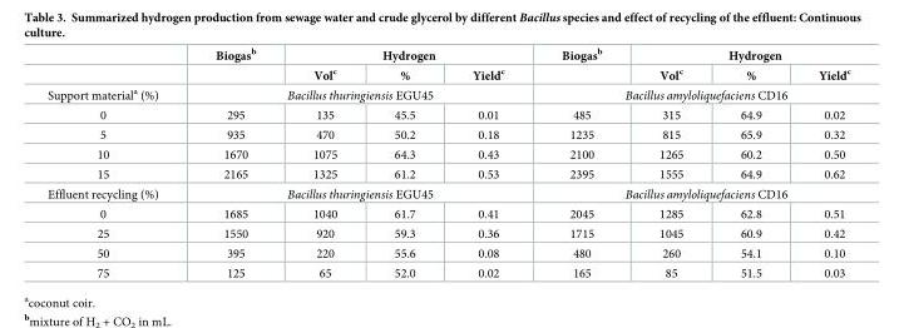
<table><thead><tr><td rowspan="2"></td><td rowspan="2">Biogas<sup>b</sup></td><td colspan="3">Hydrogen</td><td rowspan="2">Biogas<sup>b</sup></td><td colspan="3">Hydrogen</td></tr><tr><td>Vol<sup>c</sup></td><td>%</td><td>Yield<sup>c</sup></td><td>Vol<sup>c</sup></td><td>%</td><td>Yield<sup>c</sup></td></tr></thead><tbody><tr><td>Support material<sup>a</sup> (%)</td><td colspan="4">Bacillus thuringiensis EGU45</td><td colspan="4">Bacillus amyloliquefaciens CD16</td></tr><tr><td>0</td><td>295</td><td>135</td><td>45.5</td><td>0.01</td><td>485</td><td>315</td><td>64.9</td><td>0.02</td></tr><tr><td>5</td><td>935</td><td>470</td><td>50.2</td><td>0.18</td><td>1235</td><td>815</td><td>65.9</td><td>0.32</td></tr><tr><td>10</td><td>1670</td><td>1075</td><td>64.3</td><td>0.43</td><td>2100</td><td>1265</td><td>60.2</td><td>0.50</td></tr><tr><td>15</td><td>2165</td><td>1325</td><td>61.2</td><td>0.53</td><td>2395</td><td>1555</td><td>64.9</td><td>0.62</td></tr><tr><td>Effluent recycling (%)</td><td colspan="4">Bacillus thuringiensis EGU45</td><td colspan="4">Bacillus amyloliquefaciens CD16</td></tr><tr><td>0</td><td>1685</td><td>1040</td><td>61.7</td><td>0.41</td><td>2045</td><td>1285</td><td>62.8</td><td>0.51</td></tr><tr><td>25</td><td>1550</td><td>920</td><td>59.3</td><td>0.36</td><td>1715</td><td>1045</td><td>60.9</td><td>0.42</td></tr><tr><td>50</td><td>395</td><td>220</td><td>55.6</td><td>0.08</td><td>480</td><td>260</td><td>54.1</td><td>0.10</td></tr><tr><td>75</td><td>125</td><td>65</td><td>52.0</td><td>0.02</td><td>165</td><td>85</td><td>51.5</td><td>0.03</td></tr></tbody></table>